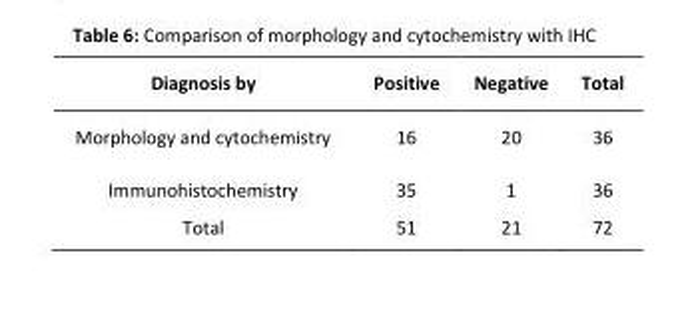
<table><thead><tr><td>Diagnosis by</td><td>Positive</td><td>Negative</td><td>Total</td></tr></thead><tbody><tr><td>Morphology and cytochemistry</td><td>16</td><td>20</td><td>36</td></tr><tr><td>Immunohistochemistry</td><td>35</td><td>1</td><td>36</td></tr><tr><td>Total</td><td>51</td><td>21</td><td>72</td></tr></tbody></table>